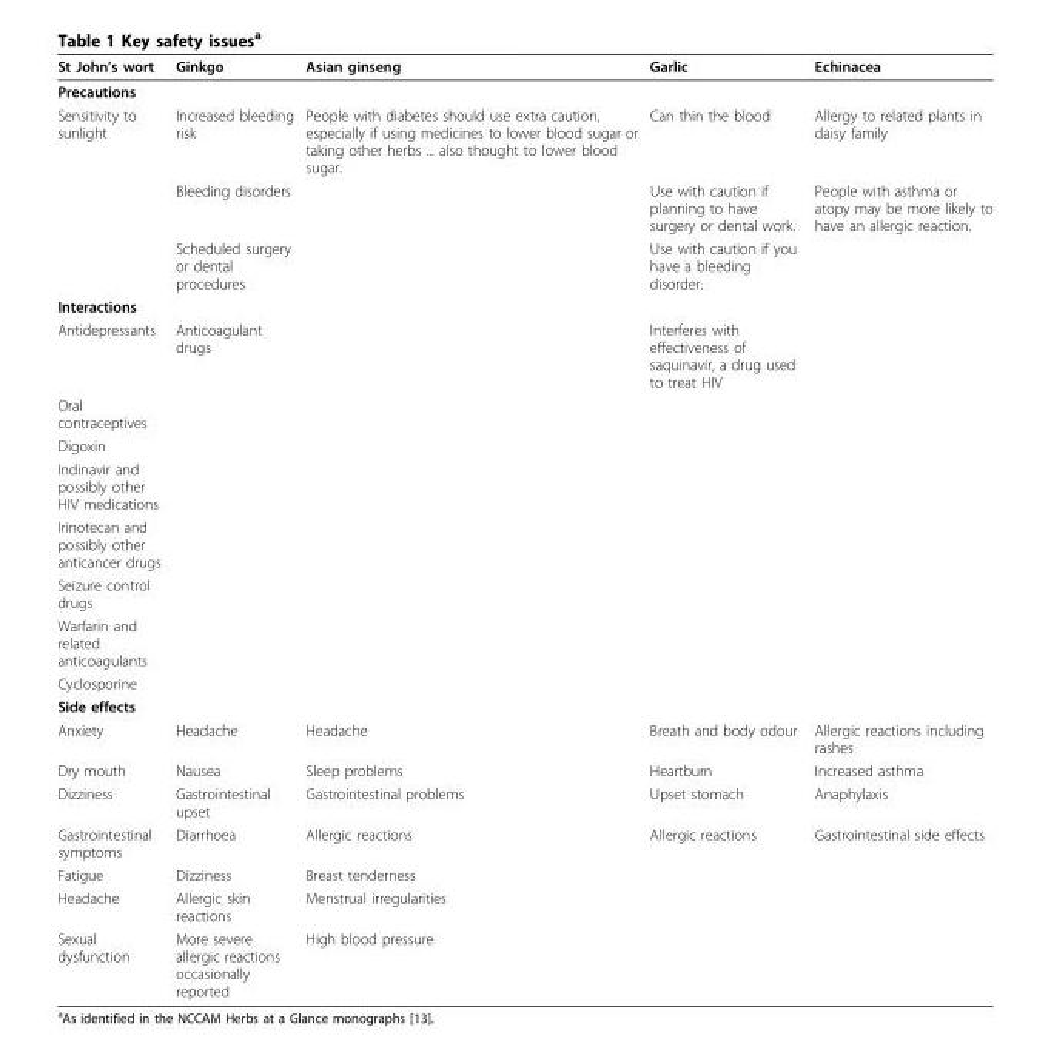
<table><thead><tr><td>St John’s wort</td><td>Ginkgo</td><td>Asian ginseng</td><td>Garlic</td><td>Echinacea</td></tr></thead><tbody><tr><td colspan="5">Precautions</td></tr><tr><td rowspan="3">Sensitivity to sunlight</td><td>Increased bleeding risk</td><td>People with diabetes should use extra caution, especially if using medicines to lower blood sugar or taking other herbs ... also thought to lower blood sugar.</td><td>Can thin the blood</td><td>Allergy to related plants in daisy family</td></tr><tr><td>Bleeding disorders</td><td></td><td>Use with caution if planning to have surgery or dental work.</td><td>People with asthma or atopy may be more likely to have an allergic reaction.</td></tr><tr><td>Scheduled surgery or dental procedures</td><td></td><td>Use with caution if you have a bleeding disorder.</td><td></td></tr><tr><td colspan="5">Interactions</td></tr><tr><td>Antidepressants</td><td>Anticoagulant drugs</td><td></td><td>Interferes with effectiveness of saquinavir, a drug used to treat HIV</td><td></td></tr><tr><td colspan="5">Oral contraceptives</td></tr><tr><td colspan="5">Digoxin</td></tr><tr><td colspan="5">Indinavir and possibly other HIV medications</td></tr><tr><td colspan="5">Irinotecan and possibly other anticancer drugs</td></tr><tr><td colspan="5">Seizure control drugs</td></tr><tr><td colspan="5">Warfarin and related anticoagulants</td></tr><tr><td colspan="5">Cyclosporine</td></tr><tr><td colspan="5">Side effects</td></tr><tr><td>Anxiety</td><td>Headache</td><td>Headache</td><td>Breath and body odour</td><td>Allergic reactions including rashes</td></tr><tr><td>Dry mouth</td><td>Nausea</td><td>Sleep problems</td><td>Heartburn</td><td>Increased asthma</td></tr><tr><td>Dizziness</td><td>Gastrointestinal upset</td><td>Gastrointestinal problems</td><td>Upset stomach</td><td>Anaphylaxis</td></tr><tr><td>Gastrointestinal symptoms</td><td>Diarrhoea</td><td>Allergic reactions</td><td>Allergic reactions</td><td>Gastrointestinal side effects</td></tr><tr><td>Fatigue</td><td>Dizziness</td><td>Breast tenderness</td><td></td><td></td></tr><tr><td>Headache</td><td>Allergic skin reactions</td><td>Menstrual irregularities</td><td></td><td></td></tr><tr><td>Sexual dysfunction</td><td>More severe allergic reactions occasionally reported</td><td>High blood pressure</td><td></td><td></td></tr></tbody></table>